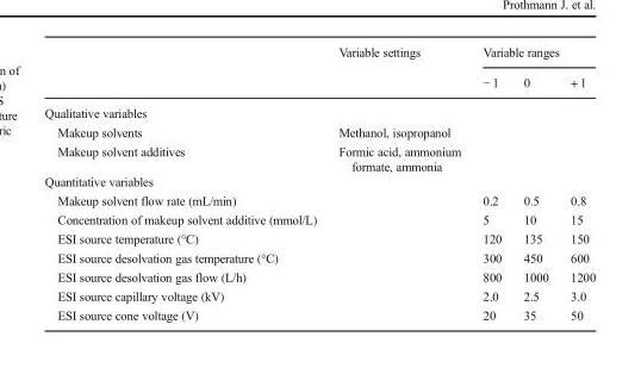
<table><thead><tr><td rowspan="2"></td><td rowspan="2">Variable settings</td><td colspan="3">Variable ranges</td></tr><tr><td>− 1</td><td>0</td><td>+ 1</td></tr></thead><tbody><tr><td colspan="5">Qualitative variables</td></tr><tr><td>Makeup solvents</td><td>Methanol, isopropanol</td><td></td><td></td><td></td></tr><tr><td>Makeup solvent additives</td><td>Formic acid, ammonium formate, ammonia</td><td></td><td></td><td></td></tr><tr><td colspan="5">Quantitative variables</td></tr><tr><td>Makeup solvent flow rate (mL/min)</td><td></td><td>0.2</td><td>0.5</td><td>0.8</td></tr><tr><td>Concentration of makeup solvent additive (mmol/L)</td><td></td><td>5</td><td>10</td><td>15</td></tr><tr><td>ESI source temperature (°C)</td><td></td><td>120</td><td>135</td><td>150</td></tr><tr><td>ESI source desolvation gas temperature (°C)</td><td></td><td>300</td><td>450</td><td>600</td></tr><tr><td>ESI source desolvation gas flow (L/h)</td><td></td><td>800</td><td>1000</td><td>1200</td></tr><tr><td>ESI source capillary voltage (kV)</td><td></td><td>2.0</td><td>2.5</td><td>3.0</td></tr><tr><td>ESI source cone voltage (V)</td><td></td><td>20</td><td>35</td><td>50</td></tr></tbody></table>